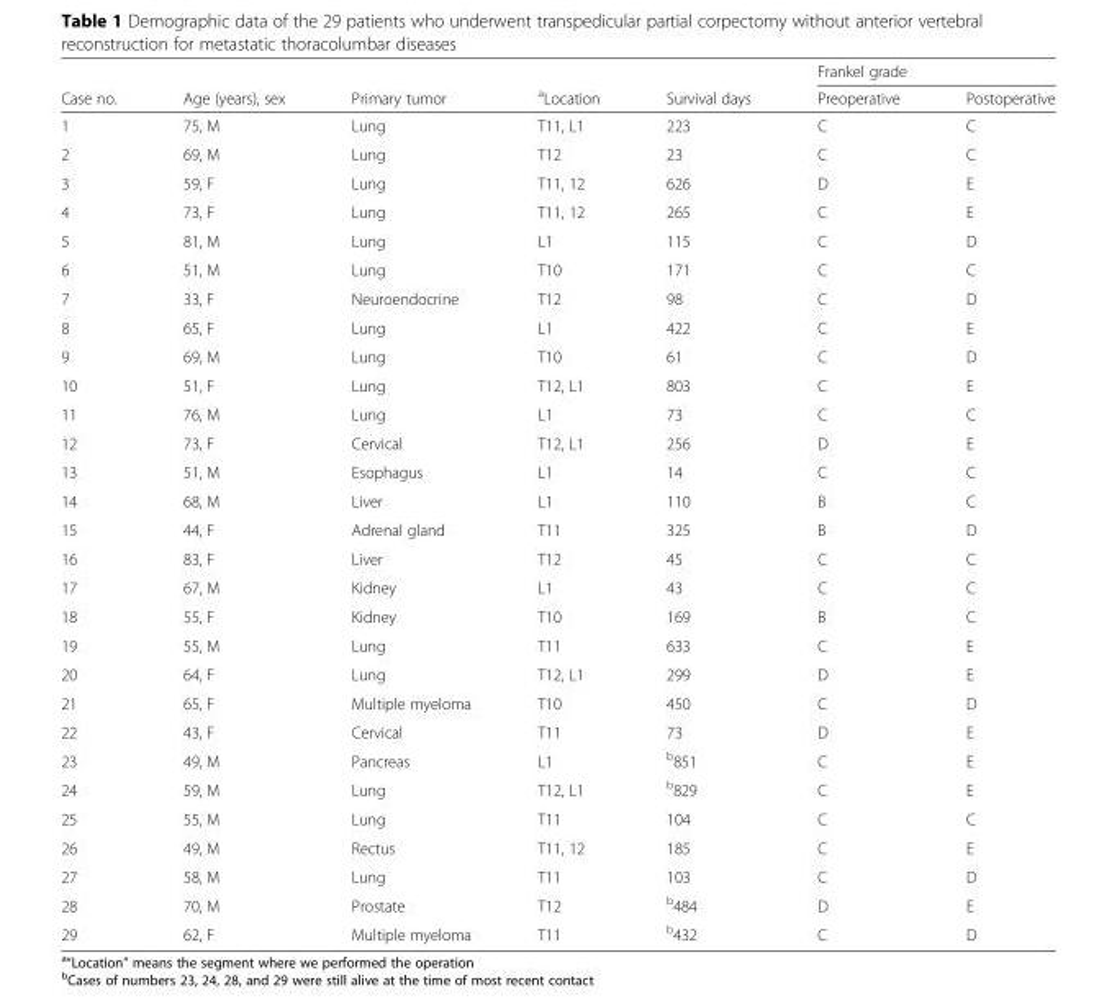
<table><thead><tr><td rowspan="2">Case no.</td><td rowspan="2">Age (years), sex</td><td rowspan="2">Primary tumor</td><td rowspan="2"><sup>a</sup>Location</td><td rowspan="2">Survival days</td><td colspan="2">Frankel grade</td></tr><tr><td>Preoperative</td><td>Postoperative</td></tr></thead><tbody><tr><td>1</td><td>75, M</td><td>Lung</td><td>T11, L1</td><td>223</td><td>C</td><td>C</td></tr><tr><td>2</td><td>69, M</td><td>Lung</td><td>T12</td><td>23</td><td>C</td><td>C</td></tr><tr><td>3</td><td>59, F</td><td>Lung</td><td>T11, 12</td><td>626</td><td>D</td><td>E</td></tr><tr><td>4</td><td>73, F</td><td>Lung</td><td>T11, 12</td><td>265</td><td>C</td><td>E</td></tr><tr><td>5</td><td>81, M</td><td>Lung</td><td>L1</td><td>115</td><td>C</td><td>D</td></tr><tr><td>6</td><td>51, M</td><td>Lung</td><td>T10</td><td>171</td><td>C</td><td>C</td></tr><tr><td>7</td><td>33, F</td><td>Neuroendocrine</td><td>T12</td><td>98</td><td>C</td><td>D</td></tr><tr><td>8</td><td>65, F</td><td>Lung</td><td>L1</td><td>422</td><td>C</td><td>E</td></tr><tr><td>9</td><td>69, M</td><td>Lung</td><td>T10</td><td>61</td><td>C</td><td>D</td></tr><tr><td>10</td><td>51, F</td><td>Lung</td><td>T12, L1</td><td>803</td><td>C</td><td>E</td></tr><tr><td>11</td><td>76, M</td><td>Lung</td><td>L1</td><td>73</td><td>C</td><td>C</td></tr><tr><td>12</td><td>73, F</td><td>Cervical</td><td>T12, L1</td><td>256</td><td>D</td><td>E</td></tr><tr><td>13</td><td>51, M</td><td>Esophagus</td><td>L1</td><td>14</td><td>C</td><td>C</td></tr><tr><td>14</td><td>68, M</td><td>Liver</td><td>L1</td><td>110</td><td>B</td><td>C</td></tr><tr><td>15</td><td>44, F</td><td>Adrenal gland</td><td>T11</td><td>325</td><td>B</td><td>D</td></tr><tr><td>16</td><td>83, F</td><td>Liver</td><td>T12</td><td>45</td><td>C</td><td>C</td></tr><tr><td>17</td><td>67, M</td><td>Kidney</td><td>L1</td><td>43</td><td>C</td><td>C</td></tr><tr><td>18</td><td>55, F</td><td>Kidney</td><td>T10</td><td>169</td><td>B</td><td>C</td></tr><tr><td>19</td><td>55, M</td><td>Lung</td><td>T11</td><td>633</td><td>C</td><td>E</td></tr><tr><td>20</td><td>64, F</td><td>Lung</td><td>T12, L1</td><td>299</td><td>D</td><td>E</td></tr><tr><td>21</td><td>65, F</td><td>Multiple myeloma</td><td>T10</td><td>450</td><td>C</td><td>D</td></tr><tr><td>22</td><td>43, F</td><td>Cervical</td><td>T11</td><td>73</td><td>D</td><td>E</td></tr><tr><td>23</td><td>49, M</td><td>Pancreas</td><td>L1</td><td><sup>b</sup>851</td><td>C</td><td>E</td></tr><tr><td>24</td><td>59, M</td><td>Lung</td><td>T12, L1</td><td><sup>b</sup>829</td><td>C</td><td>E</td></tr><tr><td>25</td><td>55, M</td><td>Lung</td><td>T11</td><td>104</td><td>C</td><td>C</td></tr><tr><td>26</td><td>49, M</td><td>Rectus</td><td>T11, 12</td><td>185</td><td>C</td><td>E</td></tr><tr><td>27</td><td>58, M</td><td>Lung</td><td>T11</td><td>103</td><td>C</td><td>D</td></tr><tr><td>28</td><td>70, M</td><td>Prostate</td><td>T12</td><td><sup>b</sup>484</td><td>D</td><td>E</td></tr><tr><td>29</td><td>62, F</td><td>Multiple myeloma</td><td>T11</td><td><sup>b</sup>432</td><td>C</td><td>D</td></tr></tbody></table>